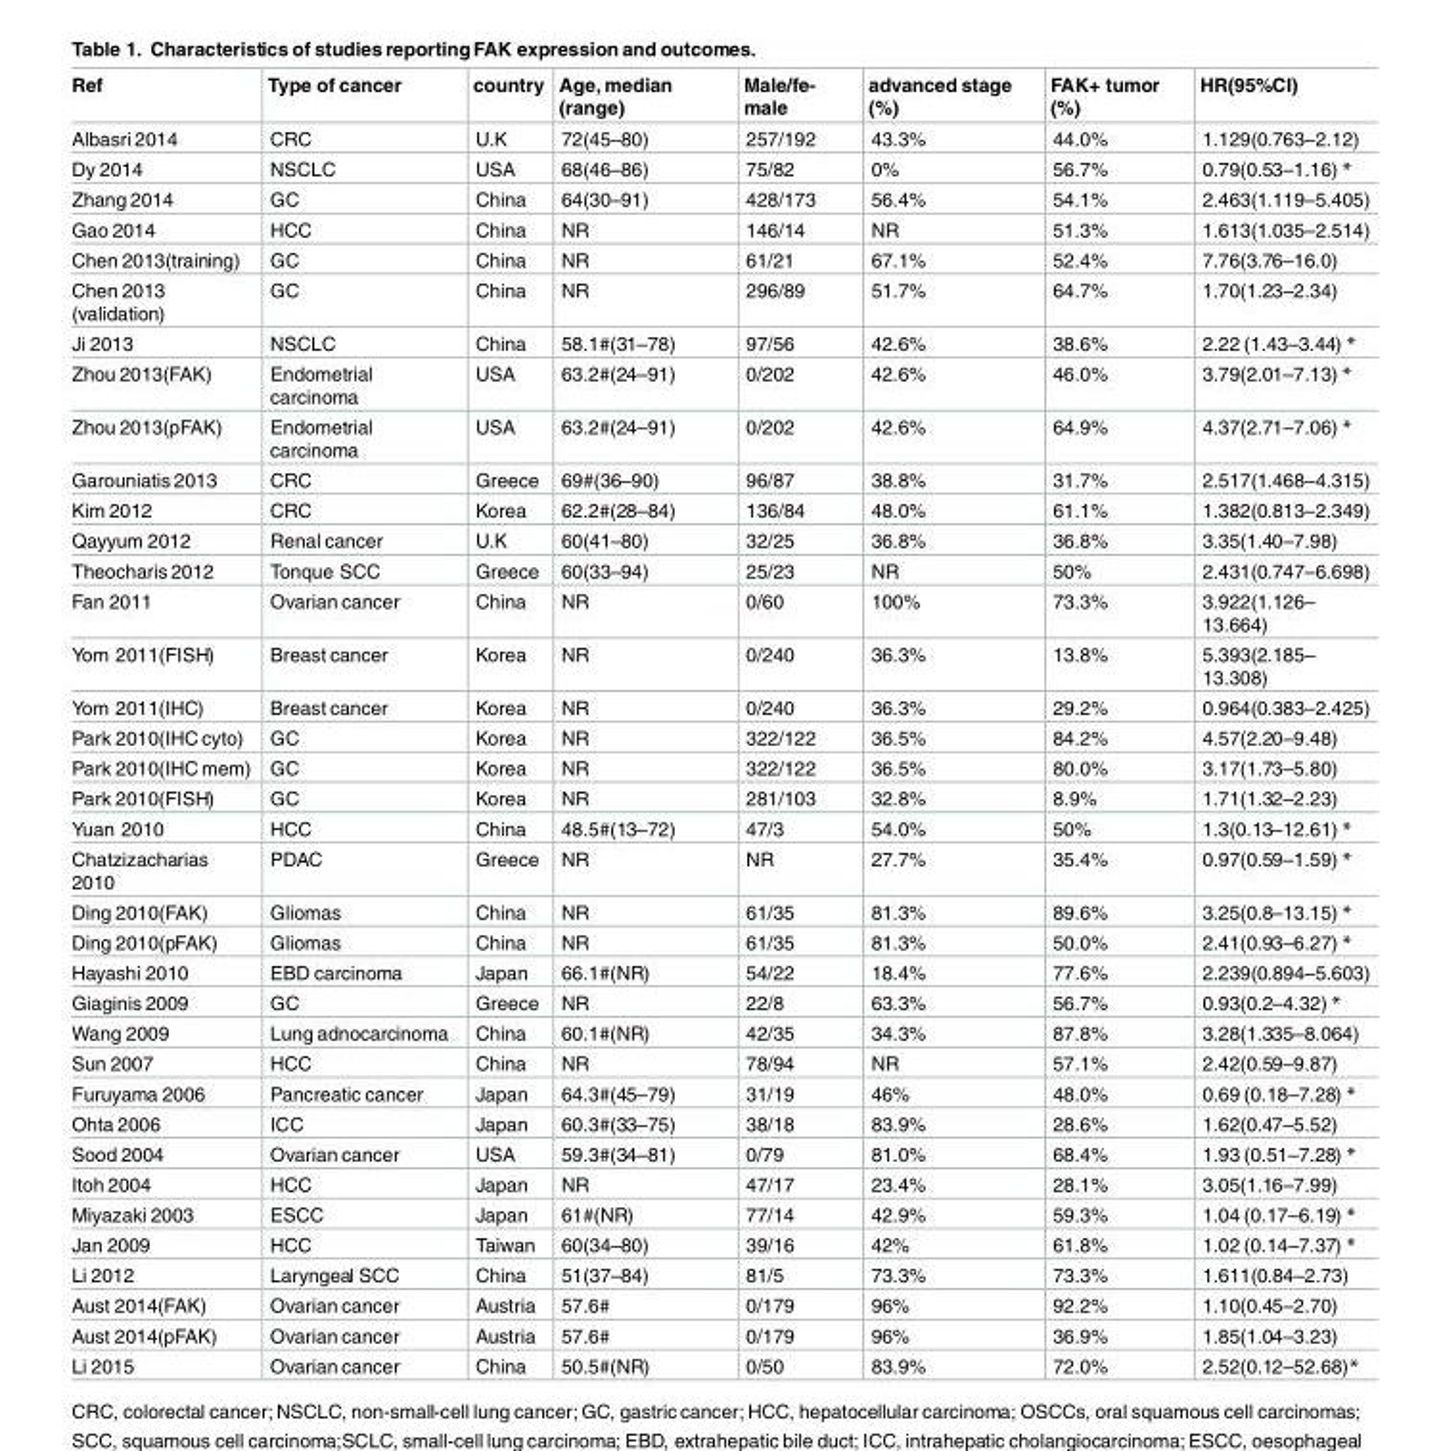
<table><thead><tr><td>Ref</td><td>Type of cancer</td><td>country</td><td>Age, median (range)</td><td>Male/fe- male</td><td>advanced stage (%)</td><td>FAK+ tumor (%)</td><td>HR(95%CI)</td></tr></thead><tbody><tr><td>Albasri 2014</td><td>CRC</td><td>U.K</td><td>72(45–80)</td><td>257/192</td><td>43.3%</td><td>44.0%</td><td>1.129(0.763–2.12)</td></tr><tr><td>Dy 2014</td><td>NSCLC</td><td>USA</td><td>68(46–86)</td><td>75/82</td><td>0%</td><td>56.7%</td><td>0.79(0.53–1.16) *</td></tr><tr><td>Zhang 2014</td><td>GC</td><td>China</td><td>64(30–91)</td><td>428/173</td><td>56.4%</td><td>54.1%</td><td>2.463(1.119–5.405)</td></tr><tr><td>Gao 2014</td><td>HCC</td><td>China</td><td>NR</td><td>146/14</td><td>NR</td><td>51.3%</td><td>1.613(1.035–2.514)</td></tr><tr><td>Chen 2013(training)</td><td>GC</td><td>China</td><td>NR</td><td>61/21</td><td>67.1%</td><td>52.4%</td><td>7.76(3.76–16.0)</td></tr><tr><td>Chen 2013 (validation)</td><td>GC</td><td>China</td><td>NR</td><td>296/89</td><td>51.7%</td><td>64.7%</td><td>1.70(1.23–2.34)</td></tr><tr><td>Ji 2013</td><td>NSCLC</td><td>China</td><td>58.1#(31–78)</td><td>97/56</td><td>42.6%</td><td>38.6%</td><td>2.22 (1.43–3.44) *</td></tr><tr><td>Zhou 2013(FAK)</td><td>Endometrial carcinoma</td><td>USA</td><td>63.2#(24–91)</td><td>0/202</td><td>42.6%</td><td>46.0%</td><td>3.79(2.01–7.13) *</td></tr><tr><td>Zhou 2013(pFAK)</td><td>Endometrial carcinoma</td><td>USA</td><td>63.2#(24–91)</td><td>0/202</td><td>42.6%</td><td>64.9%</td><td>4.37(2.71–7.06) *</td></tr><tr><td>Garouniatis 2013</td><td>CRC</td><td>Greece</td><td>69#(36–90)</td><td>96/87</td><td>38.8%</td><td>31.7%</td><td>2.517(1.468–4.315)</td></tr><tr><td>Kim 2012</td><td>CRC</td><td>Korea</td><td>62.2#(28–84)</td><td>136/84</td><td>48.0%</td><td>61.1%</td><td>1.382(0.813–2.349)</td></tr><tr><td>Qayyum 2012</td><td>Renal cancer</td><td>U.K</td><td>60(41–80)</td><td>32/25</td><td>36.8%</td><td>36.8%</td><td>3.35(1.40–7.98)</td></tr><tr><td>Theocharis 2012</td><td>Tonque SCC</td><td>Greece</td><td>60(33–94)</td><td>25/23</td><td>NR</td><td>50%</td><td>2.431(0.747–6.698)</td></tr><tr><td>Fan 2011</td><td>Ovarian cancer</td><td>China</td><td>NR</td><td>0/60</td><td>100%</td><td>73.3%</td><td>3.922(1.126– 13.664)</td></tr><tr><td>Yom 2011(FISH)</td><td>Breast cancer</td><td>Korea</td><td>NR</td><td>0/240</td><td>36.3%</td><td>13.8%</td><td>5.393(2.185– 13.308)</td></tr><tr><td>Yom 2011(IHC)</td><td>Breast cancer</td><td>Korea</td><td>NR</td><td>0/240</td><td>36.3%</td><td>29.2%</td><td>0.964(0.383–2.425)</td></tr><tr><td>Park 2010(IHC cyto)</td><td>GC</td><td>Korea</td><td>NR</td><td>322/122</td><td>36.5%</td><td>84.2%</td><td>4.57(2.20–9.48)</td></tr><tr><td>Park 2010(IHC mem)</td><td>GC</td><td>Korea</td><td>NR</td><td>322/122</td><td>36.5%</td><td>80.0%</td><td>3.17(1.73–5.80)</td></tr><tr><td>Park 2010(FISH)</td><td>GC</td><td>Korea</td><td>NR</td><td>281/103</td><td>32.8%</td><td>8.9%</td><td>1.71(1.32–2.23)</td></tr><tr><td>Yuan 2010</td><td>HCC</td><td>China</td><td>48.5#(13–72)</td><td>47/3</td><td>54.0%</td><td>50%</td><td>1.3(0.13–12.61) *</td></tr><tr><td>Chatzizacharias 2010</td><td>PDAC</td><td>Greece</td><td>NR</td><td>NR</td><td>27.7%</td><td>35.4%</td><td>0.97(0.59–1.59) *</td></tr><tr><td>Ding 2010(FAK)</td><td>Gliomas</td><td>China</td><td>NR</td><td>61/35</td><td>81.3%</td><td>89.6%</td><td>3.25(0.8–13.15) *</td></tr><tr><td>Ding 2010(pFAK)</td><td>Gliomas</td><td>China</td><td>NR</td><td>61/35</td><td>81.3%</td><td>50.0%</td><td>2.41(0.93–6.27) *</td></tr><tr><td>Hayashi 2010</td><td>EBD carcinoma</td><td>Japan</td><td>66.1#(NR)</td><td>54/22</td><td>18.4%</td><td>77.6%</td><td>2.239(0.894–5.603)</td></tr><tr><td>Giaginis 2009</td><td>GC</td><td>Greece</td><td>NR</td><td>22/8</td><td>63.3%</td><td>56.7%</td><td>0.93(0.2–4.32) *</td></tr><tr><td>Wang 2009</td><td>Lung adnocarcinoma</td><td>China</td><td>60.1#(NR)</td><td>42/35</td><td>34.3%</td><td>87.8%</td><td>3.28(1.335–8.064)</td></tr><tr><td>Sun 2007</td><td>HCC</td><td>China</td><td>NR</td><td>78/94</td><td>NR</td><td>57.1%</td><td>2.42(0.59–9.87)</td></tr><tr><td>Furuyama 2006</td><td>Pancreatic cancer</td><td>Japan</td><td>64.3#(45–79)</td><td>31/19</td><td>46%</td><td>48.0%</td><td>0.69 (0.18–7.28) *</td></tr><tr><td>Ohta 2006</td><td>ICC</td><td>Japan</td><td>60.3#(33–75)</td><td>38/18</td><td>83.9%</td><td>28.6%</td><td>1.62(0.47–5.52)</td></tr><tr><td>Sood 2004</td><td>Ovarian cancer</td><td>USA</td><td>59.3#(34–81)</td><td>0/79</td><td>81.0%</td><td>68.4%</td><td>1.93 (0.51–7.28) *</td></tr><tr><td>Itoh 2004</td><td>HCC</td><td>Japan</td><td>NR</td><td>47/17</td><td>23.4%</td><td>28.1%</td><td>3.05(1.16–7.99)</td></tr><tr><td>Miyazaki 2003</td><td>ESCC</td><td>Japan</td><td>61#(NR)</td><td>77/14</td><td>42.9%</td><td>59.3%</td><td>1.04 (0.17–6.19) *</td></tr><tr><td>Jan 2009</td><td>HCC</td><td>Taiwan</td><td>60(34–80)</td><td>39/16</td><td>42%</td><td>61.8%</td><td>1.02 (0.14–7.37) *</td></tr><tr><td>Li 2012</td><td>Laryngeal SCC</td><td>China</td><td>51(37–84)</td><td>81/5</td><td>73.3%</td><td>73.3%</td><td>1.611(0.84–2.73)</td></tr><tr><td>Aust 2014(FAK)</td><td>Ovarian cancer</td><td>Austria</td><td>57.6#</td><td>0/179</td><td>96%</td><td>92.2%</td><td>1.10(0.45–2.70)</td></tr><tr><td>Aust 2014(pFAK)</td><td>Ovarian cancer</td><td>Austria</td><td>57.6#</td><td>0/179</td><td>96%</td><td>36.9%</td><td>1.85(1.04–3.23)</td></tr><tr><td>Li 2015</td><td>Ovarian cancer</td><td>China</td><td>50.5#(NR)</td><td>0/50</td><td>83.9%</td><td>72.0%</td><td>2.52(0.12–52.68)*</td></tr></tbody></table>